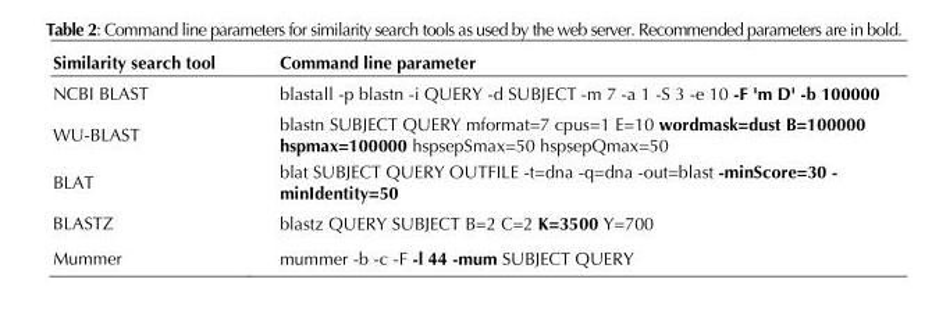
<table><thead><tr><td>Similarity search tool</td><td>Command line parameter</td></tr></thead><tbody><tr><td>NCBI BLAST</td><td>blastall -p blastn -i QUERY -d SUBJECT -m 7 -a 1 -S 3 -e 10 -F &#x27;m D&#x27; -b 100000</td></tr><tr><td>WU-BLAST</td><td>blastn SUBJECT QUERY mformat=7 cpus=1 E=10 wordmask=dust B=100000 hspmax=100000 hspsepSmax=50 hspsepQmax=50</td></tr><tr><td>BLAT</td><td>blat SUBJECT QUERY OUTFILE -t=dna -q=dna -out=blast -minScore=30 - minIdentity=50</td></tr><tr><td>BLASTZ</td><td>blastz QUERY SUBJECT B=2 C=2 K=3500 Y=700</td></tr><tr><td>Mummer</td><td>mummer -b -c -F -l 44 -mum SUBJECT QUERY</td></tr></tbody></table>